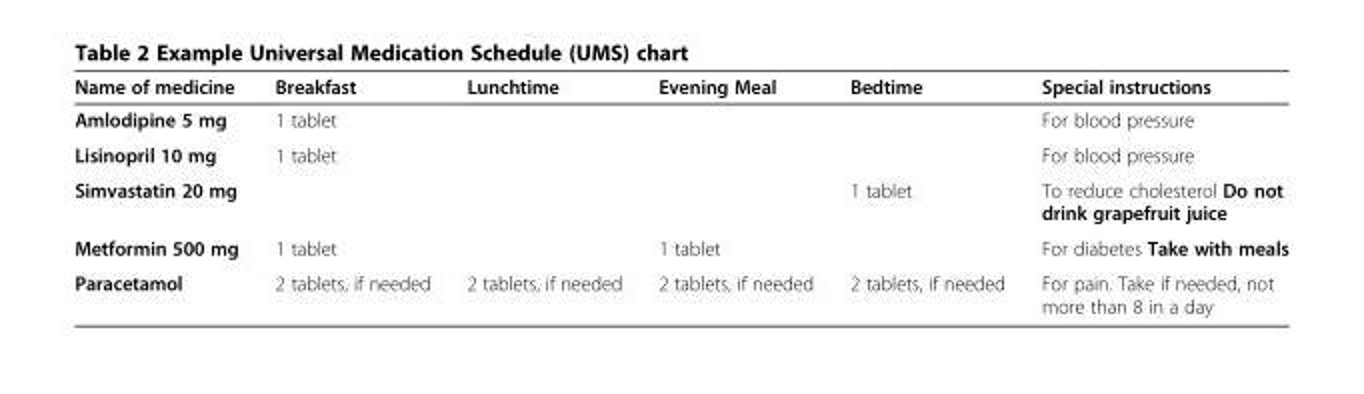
<table><thead><tr><td>Name of medicine</td><td>Breakfast</td><td>Lunchtime</td><td>Evening Meal</td><td>Bedtime</td><td>Special instructions</td></tr></thead><tbody><tr><td>Amlodipine 5 mg</td><td>1 tablet</td><td></td><td></td><td></td><td>For blood pressure</td></tr><tr><td>Lisinopril 10 mg</td><td>1 tablet</td><td></td><td></td><td></td><td>For blood pressure</td></tr><tr><td>Simvastatin 20 mg</td><td></td><td></td><td></td><td>1 tablet</td><td>To reduce cholesterol Do not drink grapefruit juice</td></tr><tr><td>Metformin 500 mg</td><td>1 tablet</td><td></td><td>1 tablet</td><td></td><td>For diabetes Take with meals</td></tr><tr><td>Paracetamol</td><td>2 tablets, if needed</td><td>2 tablets, if needed</td><td>2 tablets, if needed</td><td>2 tablets, if needed</td><td>For pain. Take if needed, not more than 8 in a day</td></tr></tbody></table>